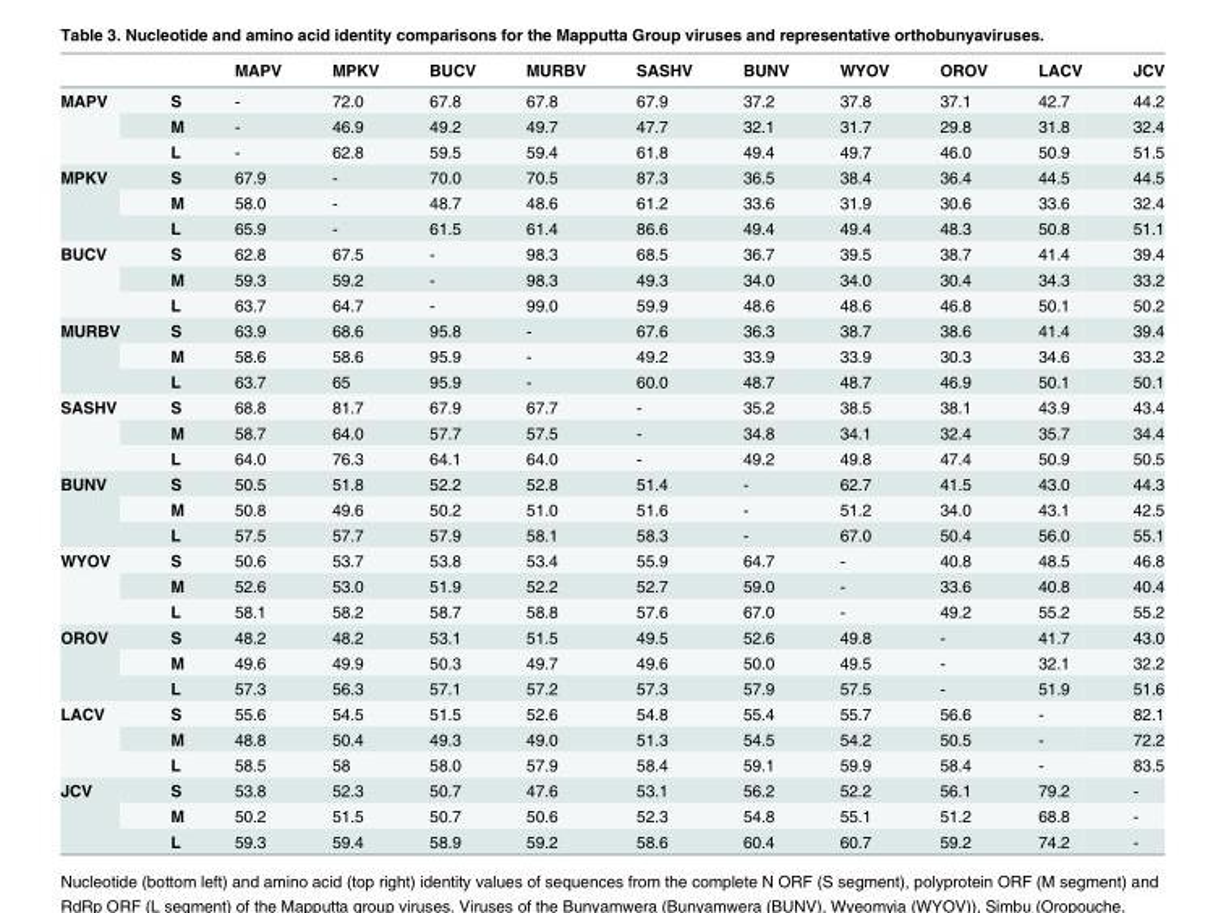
<table><thead><tr><td></td><td></td><td>MAPV</td><td>MPKV</td><td>BUCV</td><td>MURBV</td><td>SASHV</td><td>BUNV</td><td>WYOV</td><td>OROV</td><td>LACV</td><td>JCV</td></tr></thead><tbody><tr><td rowspan="3">MAPV</td><td>S</td><td>-</td><td>72.0</td><td>67.8</td><td>67.8</td><td>67.9</td><td>37.2</td><td>37.8</td><td>37.1</td><td>42.7</td><td>44.2</td></tr><tr><td>M</td><td>-</td><td>46.9</td><td>49.2</td><td>49.7</td><td>47.7</td><td>32.1</td><td>31.7</td><td>29.8</td><td>31.8</td><td>32.4</td></tr><tr><td>L</td><td>-</td><td>62.8</td><td>59.5</td><td>59.4</td><td>61.8</td><td>49.4</td><td>49.7</td><td>46.0</td><td>50.9</td><td>51.5</td></tr><tr><td rowspan="3">MPKV</td><td>S</td><td>67.9</td><td>-</td><td>70.0</td><td>70.5</td><td>87.3</td><td>36.5</td><td>38.4</td><td>36.4</td><td>44.5</td><td>44.5</td></tr><tr><td>M</td><td>58.0</td><td>-</td><td>48.7</td><td>48.6</td><td>61.2</td><td>33.6</td><td>31.9</td><td>30.6</td><td>33.6</td><td>32.4</td></tr><tr><td>L</td><td>65.9</td><td>-</td><td>61.5</td><td>61.4</td><td>86.6</td><td>49.4</td><td>49.4</td><td>48.3</td><td>50.8</td><td>51.1</td></tr><tr><td rowspan="3">BUCV</td><td>S</td><td>62.8</td><td>67.5</td><td>-</td><td>98.3</td><td>68.5</td><td>36.7</td><td>39.5</td><td>38.7</td><td>41.4</td><td>39.4</td></tr><tr><td>M</td><td>59.3</td><td>59.2</td><td>-</td><td>98.3</td><td>49.3</td><td>34.0</td><td>34.0</td><td>30.4</td><td>34.3</td><td>33.2</td></tr><tr><td>L</td><td>63.7</td><td>64.7</td><td>-</td><td>99.0</td><td>59.9</td><td>48.6</td><td>48.6</td><td>46.8</td><td>50.1</td><td>50.2</td></tr><tr><td rowspan="3">MURBV</td><td>S</td><td>63.9</td><td>68.6</td><td>95.8</td><td>-</td><td>67.6</td><td>36.3</td><td>38.7</td><td>38.6</td><td>41.4</td><td>39.4</td></tr><tr><td>M</td><td>58.6</td><td>58.6</td><td>95.9</td><td>-</td><td>49.2</td><td>33.9</td><td>33.9</td><td>30.3</td><td>34.6</td><td>33.2</td></tr><tr><td>L</td><td>63.7</td><td>65</td><td>95.9</td><td>-</td><td>60.0</td><td>48.7</td><td>48.7</td><td>46.9</td><td>50.1</td><td>50.1</td></tr><tr><td rowspan="3">SASHV</td><td>S</td><td>68.8</td><td>81.7</td><td>67.9</td><td>67.7</td><td>-</td><td>35.2</td><td>38.5</td><td>38.1</td><td>43.9</td><td>43.4</td></tr><tr><td>M</td><td>58.7</td><td>64.0</td><td>57.7</td><td>57.5</td><td>-</td><td>34.8</td><td>34.1</td><td>32.4</td><td>35.7</td><td>34.4</td></tr><tr><td>L</td><td>64.0</td><td>76.3</td><td>64.1</td><td>64.0</td><td>-</td><td>49.2</td><td>49.8</td><td>47.4</td><td>50.9</td><td>50.5</td></tr><tr><td rowspan="3">BUNV</td><td>S</td><td>50.5</td><td>51.8</td><td>52.2</td><td>52.8</td><td>51.4</td><td>-</td><td>62.7</td><td>41.5</td><td>43.0</td><td>44.3</td></tr><tr><td>M</td><td>50.8</td><td>49.6</td><td>50.2</td><td>51.0</td><td>51.6</td><td>-</td><td>51.2</td><td>34.0</td><td>43.1</td><td>42.5</td></tr><tr><td>L</td><td>57.5</td><td>57.7</td><td>57.9</td><td>58.1</td><td>58.3</td><td>-</td><td>67.0</td><td>50.4</td><td>56.0</td><td>55.1</td></tr><tr><td rowspan="3">WYOV</td><td>S</td><td>50.6</td><td>53.7</td><td>53.8</td><td>53.4</td><td>55.9</td><td>64.7</td><td>-</td><td>40.8</td><td>48.5</td><td>46.8</td></tr><tr><td>M</td><td>52.6</td><td>53.0</td><td>51.9</td><td>52.2</td><td>52.7</td><td>59.0</td><td>-</td><td>33.6</td><td>40.8</td><td>40.4</td></tr><tr><td>L</td><td>58.1</td><td>58.2</td><td>58.7</td><td>58.8</td><td>57.6</td><td>67.0</td><td>-</td><td>49.2</td><td>55.2</td><td>55.2</td></tr><tr><td rowspan="3">OROV</td><td>S</td><td>48.2</td><td>48.2</td><td>53.1</td><td>51.5</td><td>49.5</td><td>52.6</td><td>49.8</td><td>-</td><td>41.7</td><td>43.0</td></tr><tr><td>M</td><td>49.6</td><td>49.9</td><td>50.3</td><td>49.7</td><td>49.6</td><td>50.0</td><td>49.5</td><td>-</td><td>32.1</td><td>32.2</td></tr><tr><td>L</td><td>57.3</td><td>56.3</td><td>57.1</td><td>57.2</td><td>57.3</td><td>57.9</td><td>57.5</td><td>-</td><td>51.9</td><td>51.6</td></tr><tr><td rowspan="3">LACV</td><td>S</td><td>55.6</td><td>54.5</td><td>51.5</td><td>52.6</td><td>54.8</td><td>55.4</td><td>55.7</td><td>56.6</td><td>-</td><td>82.1</td></tr><tr><td>M</td><td>48.8</td><td>50.4</td><td>49.3</td><td>49.0</td><td>51.3</td><td>54.5</td><td>54.2</td><td>50.5</td><td>-</td><td>72.2</td></tr><tr><td>L</td><td>58.5</td><td>58</td><td>58.0</td><td>57.9</td><td>58.4</td><td>59.1</td><td>59.9</td><td>58.4</td><td>-</td><td>83.5</td></tr><tr><td rowspan="3">JCV</td><td>S</td><td>53.8</td><td>52.3</td><td>50.7</td><td>47.6</td><td>53.1</td><td>56.2</td><td>52.2</td><td>56.1</td><td>79.2</td><td>-</td></tr><tr><td>M</td><td>50.2</td><td>51.5</td><td>50.7</td><td>50.6</td><td>52.3</td><td>54.8</td><td>55.1</td><td>51.2</td><td>68.8</td><td>-</td></tr><tr><td>L</td><td>59.3</td><td>59.4</td><td>58.9</td><td>59.2</td><td>58.6</td><td>60.4</td><td>60.7</td><td>59.2</td><td>74.2</td><td>-</td></tr></tbody></table>